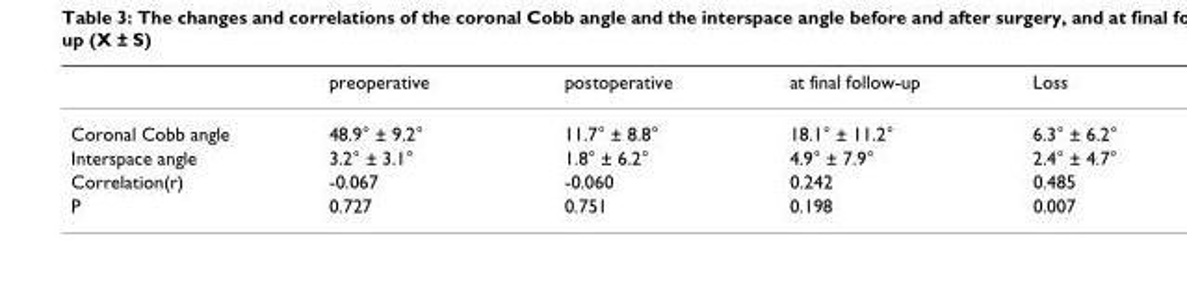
<table><thead><tr><td></td><td>preoperative</td><td>postoperative</td><td>at final follow-up</td><td>Loss</td></tr></thead><tbody><tr><td>Coronal Cobb angle</td><td>48.9° ± 9.2°</td><td>11.7° ± 8.8°</td><td>18.1° ± 11.2°</td><td>6.3° ± 6.2°</td></tr><tr><td>Interspace angle</td><td>3.2° ± 3.1°</td><td>1.8° ± 6.2°</td><td>4.9° ± 7.9°</td><td>2.4° ± 4.7°</td></tr><tr><td>Correlation(r)</td><td>-0.067</td><td>-0.060</td><td>0.242</td><td>0.485</td></tr><tr><td>P</td><td>0.727</td><td>0.751</td><td>0.198</td><td>0.007</td></tr></tbody></table>